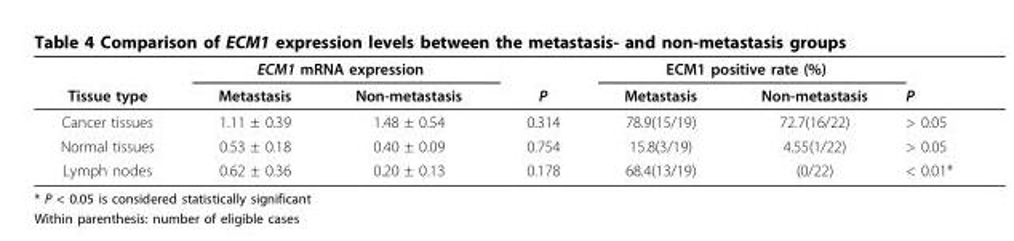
<table><thead><tr><td rowspan="2">Tissue type</td><td colspan="2">ECM1 mRNA expression</td><td rowspan="2">P</td><td colspan="2">ECM1 positive rate (%)</td><td rowspan="2">P</td></tr><tr><td>Metastasis</td><td>Non-metastasis</td><td>Metastasis</td><td>Non-metastasis</td></tr></thead><tbody><tr><td>Cancer tissues</td><td>1.11 ± 0.39</td><td>1.48 ± 0.54</td><td>0.314</td><td>78.9(15/19)</td><td>72.7(16/22)</td><td>&gt; 0.05</td></tr><tr><td>Normal tissues</td><td>0.53 ± 0.18</td><td>0.40 ± 0.09</td><td>0.754</td><td>15.8(3/19)</td><td>4.55(1/22)</td><td>&gt; 0.05</td></tr><tr><td>Lymph nodes</td><td>0.62 ± 0.36</td><td>0.20 ± 0.13</td><td>0.178</td><td>68.4(13/19)</td><td>(0/22)</td><td>&lt; 0.01*</td></tr></tbody></table>